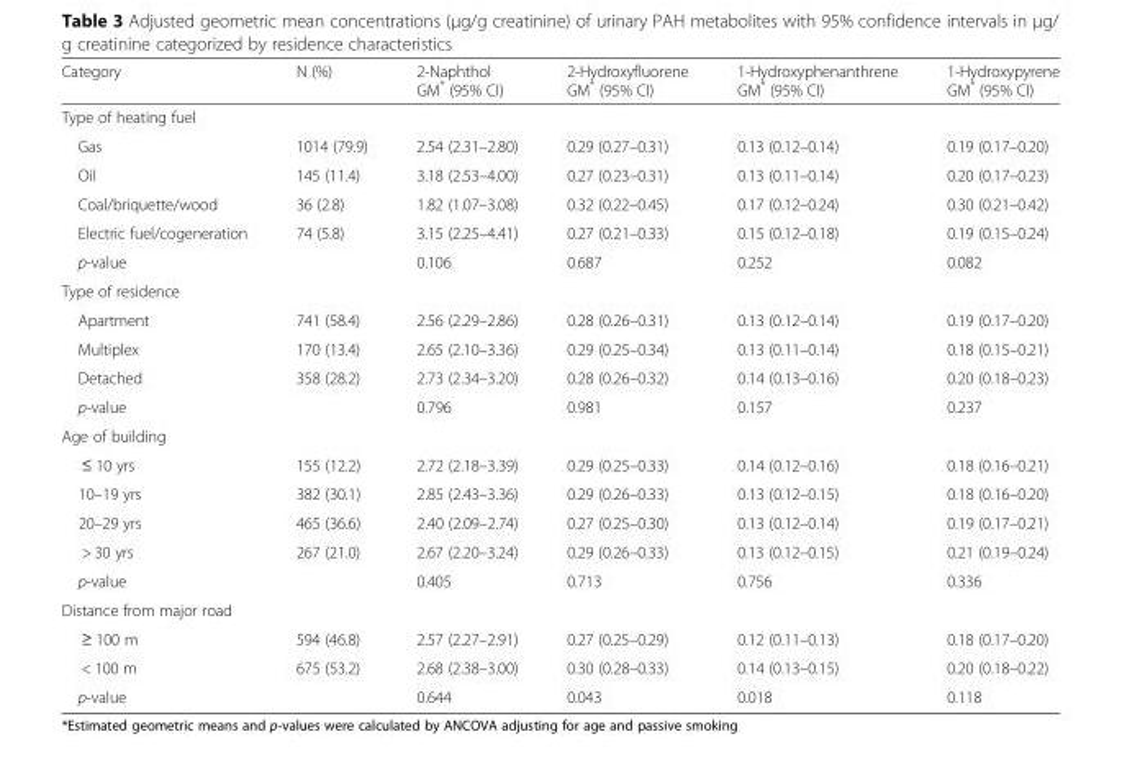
<table><thead><tr><td>Category</td><td>N (%)</td><td>2-Naphthol GM* (95% CI)</td><td>2-Hydroxyfluorene GM* (95% CI)</td><td>1-Hydroxyphenanthrene GM* (95% CI)</td><td>1-Hydroxypyrene GM* (95% CI)</td></tr></thead><tbody><tr><td colspan="6">Type of heating fuel</td></tr><tr><td>Gas</td><td>1014 (79.9)</td><td>2.54 (2.31–2.80)</td><td>0.29 (0.27–0.31)</td><td>0.13 (0.12–0.14)</td><td>0.19 (0.17–0.20)</td></tr><tr><td>Oil</td><td>145 (11.4)</td><td>3.18 (2.53–4.00)</td><td>0.27 (0.23–0.31)</td><td>0.13 (0.11–0.14)</td><td>0.20 (0.17–0.23)</td></tr><tr><td>Coal/briquette/wood</td><td>36 (2.8)</td><td>1.82 (1.07–3.08)</td><td>0.32 (0.22–0.45)</td><td>0.17 (0.12–0.24)</td><td>0.30 (0.21–0.42)</td></tr><tr><td>Electric fuel/cogeneration</td><td>74 (5.8)</td><td>3.15 (2.25–4.41)</td><td>0.27 (0.21–0.33)</td><td>0.15 (0.12–0.18)</td><td>0.19 (0.15–0.24)</td></tr><tr><td>p-value</td><td></td><td>0.106</td><td>0.687</td><td>0.252</td><td>0.082</td></tr><tr><td colspan="6">Type of residence</td></tr><tr><td>Apartment</td><td>741 (58.4)</td><td>2.56 (2.29–2.86)</td><td>0.28 (0.26–0.31)</td><td>0.13 (0.12–0.14)</td><td>0.19 (0.17–0.20)</td></tr><tr><td>Multiplex</td><td>170 (13.4)</td><td>2.65 (2.10–3.36)</td><td>0.29 (0.25–0.34)</td><td>0.13 (0.11–0.14)</td><td>0.18 (0.15–0.21)</td></tr><tr><td>Detached</td><td>358 (28.2)</td><td>2.73 (2.34–3.20)</td><td>0.28 (0.26–0.32)</td><td>0.14 (0.13–0.16)</td><td>0.20 (0.18–0.23)</td></tr><tr><td>p-value</td><td></td><td>0.796</td><td>0.981</td><td>0.157</td><td>0.237</td></tr><tr><td colspan="6">Age of building</td></tr><tr><td>≤ 10 yrs</td><td>155 (12.2)</td><td>2.72 (2.18–3.39)</td><td>0.29 (0.25–0.33)</td><td>0.14 (0.12–0.16)</td><td>0.18 (0.16–0.21)</td></tr><tr><td>10–19 yrs</td><td>382 (30.1)</td><td>2.85 (2.43–3.36)</td><td>0.29 (0.26–0.33)</td><td>0.13 (0.12–0.15)</td><td>0.18 (0.16–0.20)</td></tr><tr><td>20–29 yrs</td><td>465 (36.6)</td><td>2.40 (2.09–2.74)</td><td>0.27 (0.25–0.30)</td><td>0.13 (0.12–0.14)</td><td>0.19 (0.17–0.21)</td></tr><tr><td>&gt; 30 yrs</td><td>267 (21.0)</td><td>2.67 (2.20–3.24)</td><td>0.29 (0.26–0.33)</td><td>0.13 (0.12–0.15)</td><td>0.21 (0.19–0.24)</td></tr><tr><td>p-value</td><td></td><td>0.405</td><td>0.713</td><td>0.756</td><td>0.336</td></tr><tr><td colspan="6">Distance from major road</td></tr><tr><td>≥ 100 m</td><td>594 (46.8)</td><td>2.57 (2.27–2.91)</td><td>0.27 (0.25–0.29)</td><td>0.12 (0.11–0.13)</td><td>0.18 (0.17–0.20)</td></tr><tr><td>&lt; 100 m</td><td>675 (53.2)</td><td>2.68 (2.38–3.00)</td><td>0.30 (0.28–0.33)</td><td>0.14 (0.13–0.15)</td><td>0.20 (0.18–0.22)</td></tr><tr><td>p-value</td><td></td><td>0.644</td><td>0.043</td><td>0.018</td><td>0.118</td></tr></tbody></table>